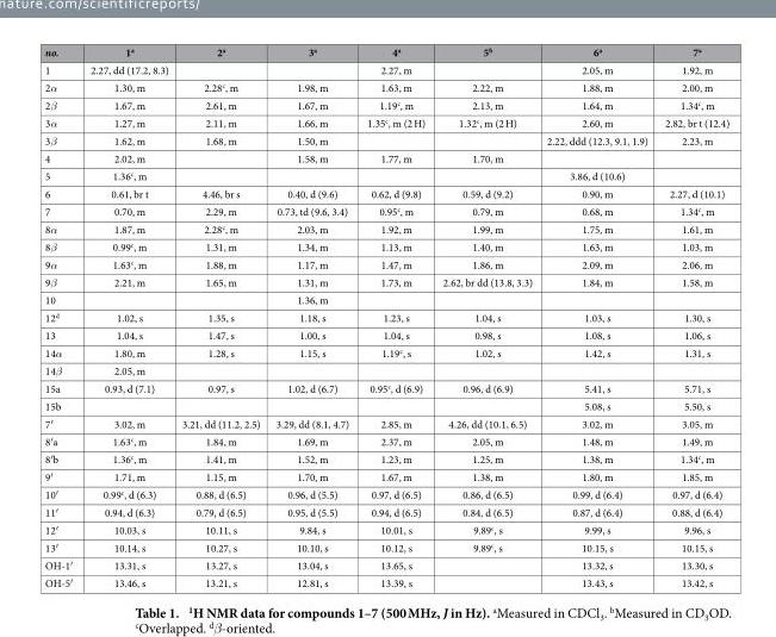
<table><thead><tr><td>no.</td><td>1<sup>a</sup></td><td>2<sup>a</sup></td><td>3<sup>a</sup></td><td>4<sup>a</sup></td><td>5<sup>b</sup></td><td>6<sup>a</sup></td><td>7<sup>a</sup></td></tr></thead><tbody><tr><td>1</td><td>2.27, dd (17.2, 8.3)</td><td></td><td></td><td>2.27, m</td><td></td><td>2.05, m</td><td>1.92, m</td></tr><tr><td>2α</td><td>1.30, m</td><td>2.28<sup>c</sup>, m</td><td>1.98, m</td><td>1.63, m</td><td>2.22, m</td><td>1.88, m</td><td>2.00, m</td></tr><tr><td>2β</td><td>1.67, m</td><td>2.61, m</td><td>1.67, m</td><td>1.19<sup>c</sup>, m</td><td>2.13, m</td><td>1.64, m</td><td>1.34<sup>c</sup>, m</td></tr><tr><td>3α</td><td>1.27, m</td><td>2.11, m</td><td>1.66, m</td><td>1.35<sup>c</sup>, m (2 H)</td><td>1.32<sup>c</sup>, m (2 H)</td><td>2.60, m</td><td>2.82, br t (12.4)</td></tr><tr><td>3β</td><td>1.62, m</td><td>1.68, m</td><td>1.50, m</td><td></td><td></td><td>2.22, ddd (12.3, 9.1, 1.9)</td><td>2.23, m</td></tr><tr><td>4</td><td>2.02, m</td><td></td><td>1.58, m</td><td>1.77, m</td><td>1.70, m</td><td></td><td></td></tr><tr><td>5</td><td>1.36<sup>c</sup>, m</td><td></td><td></td><td></td><td></td><td>3.86, d (10.6)</td><td></td></tr><tr><td>6</td><td>0.61, br t</td><td>4.46, br s</td><td>0.40, d (9.6)</td><td>0.62, d (9.8)</td><td>0.59, d (9.2)</td><td>0.90, m</td><td>2.27, d (10.1)</td></tr><tr><td>7</td><td>0.70, m</td><td>2.29, m</td><td>0.73, td (9.6, 3.4)</td><td>0.95<sup>c</sup>, m</td><td>0.79, m</td><td>0.68, m</td><td>1.34<sup>c</sup>, m</td></tr><tr><td>8α</td><td>1.87, m</td><td>2.28<sup>c</sup>, m</td><td>2.03, m</td><td>1.92, m</td><td>1.99, m</td><td>1.75, m</td><td>1.61, m</td></tr><tr><td>8β</td><td>0.99<sup>c</sup>, m</td><td>1.31, m</td><td>1.34, m</td><td>1.13, m</td><td>1.40, m</td><td>1.63, m</td><td>1.03, m</td></tr><tr><td>9α</td><td>1.63<sup>c</sup>, m</td><td>1.88, m</td><td>1.17, m</td><td>1.47, m</td><td>1.86, m</td><td>2.09, m</td><td>2.06, m</td></tr><tr><td>9β</td><td>2.21, m</td><td>1.65, m</td><td>1.31, m</td><td>1.73, m</td><td>2.62, br dd (13.8, 3.3)</td><td>1.84, m</td><td>1.58, m</td></tr><tr><td>10</td><td></td><td></td><td>1.36, m</td><td></td><td></td><td></td><td></td></tr><tr><td>12<sup>d</sup></td><td>1.02, s</td><td>1.35, s</td><td>1.18, s</td><td>1.23, s</td><td>1.04, s</td><td>1.03, s</td><td>1.30, s</td></tr><tr><td>13</td><td>1.04, s</td><td>1.47, s</td><td>1.00, s</td><td>1.04, s</td><td>0.98, s</td><td>1.08, s</td><td>1.06, s</td></tr><tr><td>14α</td><td>1.80, m</td><td>1.28, s</td><td>1.15, s</td><td>1.19<sup>c</sup>, s</td><td>1.02, s</td><td>1.42, s</td><td>1.31, s</td></tr><tr><td>14β</td><td>2.05, m</td><td></td><td></td><td></td><td></td><td></td><td></td></tr><tr><td>15a</td><td>0.93, d (7.1)</td><td>0.97, s</td><td>1.02, d (6.7)</td><td>0.95<sup>c</sup>, d (6.9)</td><td>0.96, d (6.9)</td><td>5.41, s</td><td>5.71, s</td></tr><tr><td>15b</td><td></td><td></td><td></td><td></td><td></td><td>5.08, s</td><td>5.50, s</td></tr><tr><td>7′</td><td>3.02, m</td><td>3.21, dd (11.2, 2.5)</td><td>3.29, dd (8.1, 4.7)</td><td>2.85, m</td><td>4.26, dd (10.1, 6.5)</td><td>3.02, m</td><td>3.05, m</td></tr><tr><td>8′ a</td><td>1.63<sup>c</sup>, m</td><td>1.84, m</td><td>1.69, m</td><td>2.37, m</td><td>2.05, m</td><td>1.48, m</td><td>1.49, m</td></tr><tr><td>8′ b</td><td>1.36<sup>c</sup>, m</td><td>1.41, m</td><td>1.52, m</td><td>1.23, m</td><td>1.25, m</td><td>1.38, m</td><td>1.34<sup>c</sup>, m</td></tr><tr><td>9′</td><td>1.71, m</td><td>1.15, m</td><td>1.70, m</td><td>1.67, m</td><td>1.38, m</td><td>1.80, m</td><td>1.85, m</td></tr><tr><td>10′</td><td>0.99<sup>c</sup>, d (6.3)</td><td>0.88, d (6.5)</td><td>0.96, d (5.5)</td><td>0.97, d (6.5)</td><td>0.86, d (6.5)</td><td>0.99, d (6.4)</td><td>0.97, d (6.4)</td></tr><tr><td>11′</td><td>0.94, d (6.3)</td><td>0.79, d (6.5)</td><td>0.95, d (5.5)</td><td>0.94, d (6.5)</td><td>0.84, d (6.5)</td><td>0.87, d (6.4)</td><td>0.88, d (6.4)</td></tr><tr><td>12′</td><td>10.03, s</td><td>10.11, s</td><td>9.84, s</td><td>10.01, s</td><td>9.89<sup>c</sup>, s</td><td>9.99, s</td><td>9.96, s</td></tr><tr><td>13′</td><td>10.14, s</td><td>10.27, s</td><td>10.10, s</td><td>10.12, s</td><td>9.89<sup>c</sup>, s</td><td>10.15, s</td><td>10.15, s</td></tr><tr><td>OH-1′</td><td>13.31, s</td><td>13.27, s</td><td>13.04, s</td><td>13.65, s</td><td></td><td>13.32, s</td><td>13.30, s</td></tr><tr><td>OH-5′</td><td>13.46, s</td><td>13.21, s</td><td>12.81, s</td><td>13.39, s</td><td></td><td>13.43, s</td><td>13.42, s</td></tr></tbody></table>